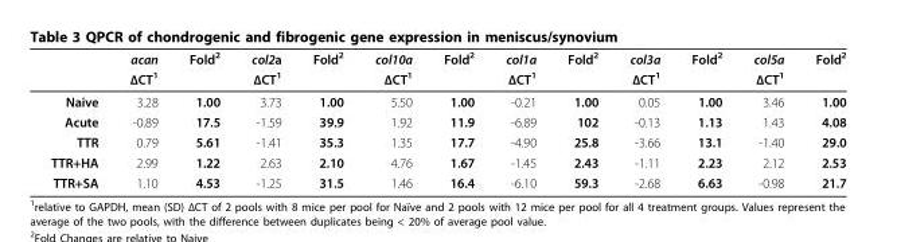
<table><thead><tr><td rowspan="2"></td><td rowspan="2">acan ΔCT<sup>1</sup></td><td rowspan="2">Fold<sup>2</sup></td><td rowspan="2">col2a ΔCT<sup>1</sup></td><td rowspan="2">Fold<sup>2</sup></td><td rowspan="2">col10a ΔCT<sup>1</sup></td><td rowspan="2">Fold<sup>2</sup></td><td rowspan="2">col1a ΔCT<sup>1</sup></td><td rowspan="2">Fold<sup>2</sup></td><td rowspan="2">col3a ΔCT<sup>1</sup></td><td rowspan="2">Fold<sup>2</sup></td><td rowspan="2">col5a ΔCT<sup>1</sup></td><td rowspan="2">Fold<sup>2</sup></td></tr><tr></tr></thead><tbody><tr><td>Naive</td><td>3.28</td><td>1.00</td><td>3.73</td><td>1.00</td><td>5.50</td><td>1.00</td><td>-0.21</td><td>1.00</td><td>0.05</td><td>1.00</td><td>3.46</td><td>1.00</td></tr><tr><td>Acute</td><td>-0.89</td><td>17.5</td><td>-1.59</td><td>39.9</td><td>1.92</td><td>11.9</td><td>-6.89</td><td>102</td><td>-0.13</td><td>1.13</td><td>1.43</td><td>4.08</td></tr><tr><td>TTR</td><td>0.79</td><td>5.61</td><td>-1.41</td><td>35.3</td><td>1.35</td><td>17.7</td><td>-4.90</td><td>25.8</td><td>-3.66</td><td>13.1</td><td>-1.40</td><td>29.0</td></tr><tr><td>TTR+HA</td><td>2.99</td><td>1.22</td><td>2.63</td><td>2.10</td><td>4.76</td><td>1.67</td><td>-1.45</td><td>2.43</td><td>-1.11</td><td>2.23</td><td>2.12</td><td>2.53</td></tr><tr><td>TTR+SA</td><td>1.10</td><td>4.53</td><td>-1.25</td><td>31.5</td><td>1.46</td><td>16.4</td><td>-6.10</td><td>59.3</td><td>-2.68</td><td>6.63</td><td>-0.98</td><td>21.7</td></tr></tbody></table>